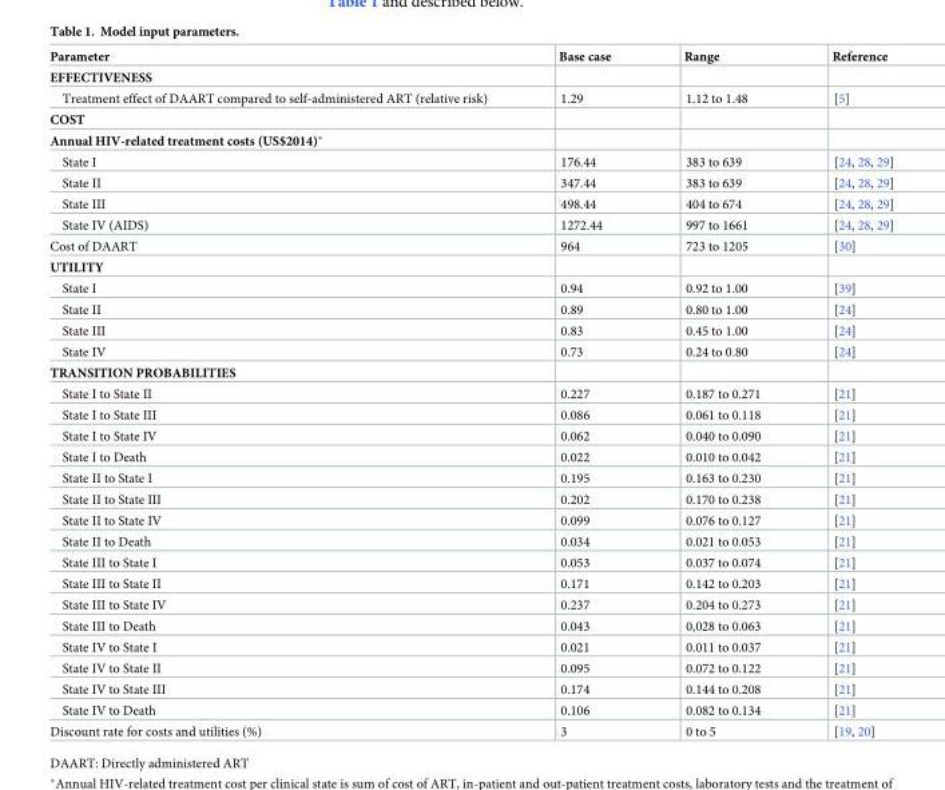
<table><thead><tr><td>Parameter</td><td>Base case</td><td>Range</td><td>Reference</td></tr></thead><tbody><tr><td colspan="4">EFFECTIVENESS</td></tr><tr><td>Treatment effect of DAART compared to self-administered ART (relative risk)</td><td>1.29</td><td>1.12 to 1.48</td><td>[5]</td></tr><tr><td colspan="4">COST</td></tr><tr><td colspan="4">Annual HIV-related treatment costs (US$2014)*</td></tr><tr><td>State I</td><td>176.44</td><td>383 to 639</td><td>[24, 28, 29]</td></tr><tr><td>State II</td><td>347.44</td><td>383 to 639</td><td>[24, 28, 29]</td></tr><tr><td>State III</td><td>498.44</td><td>404 to 674</td><td>[24, 28, 29]</td></tr><tr><td>State IV (AIDS)</td><td>1272.44</td><td>997 to 1661</td><td>[24, 28, 29]</td></tr><tr><td>Cost of DAART</td><td>964</td><td>723 to 1205</td><td>[30]</td></tr><tr><td colspan="4">UTILITY</td></tr><tr><td>State I</td><td>0.94</td><td>0.92 to 1.00</td><td>[39]</td></tr><tr><td>State II</td><td>0.89</td><td>0.80 to 1.00</td><td>[24]</td></tr><tr><td>State III</td><td>0.83</td><td>0.45 to 1.00</td><td>[24]</td></tr><tr><td>State IV</td><td>0.73</td><td>0.24 to 0.80</td><td>[24]</td></tr><tr><td colspan="4">TRANSITION PROBABILITIES</td></tr><tr><td>State I to State II</td><td>0.227</td><td>0.187 to 0.271</td><td>[21]</td></tr><tr><td>State I to State III</td><td>0.086</td><td>0.061 to 0.118</td><td>[21]</td></tr><tr><td>State I to State IV</td><td>0.062</td><td>0.040 to 0.090</td><td>[21]</td></tr><tr><td>State I to Death</td><td>0.022</td><td>0.010 to 0.042</td><td>[21]</td></tr><tr><td>State II to State I</td><td>0.195</td><td>0.163 to 0.230</td><td>[21]</td></tr><tr><td>State II to State III</td><td>0.202</td><td>0.170 to 0.238</td><td>[21]</td></tr><tr><td>State II to State IV</td><td>0.099</td><td>0.076 to 0.127</td><td>[21]</td></tr><tr><td>State II to Death</td><td>0.034</td><td>0.021 to 0.053</td><td>[21]</td></tr><tr><td>State III to State I</td><td>0.053</td><td>0.037 to 0.074</td><td>[21]</td></tr><tr><td>State III to State II</td><td>0.171</td><td>0.142 to 0.203</td><td>[21]</td></tr><tr><td>State III to State IV</td><td>0.237</td><td>0.204 to 0.273</td><td>[21]</td></tr><tr><td>State III to Death</td><td>0.043</td><td>0,028 to 0.063</td><td>[21]</td></tr><tr><td>State IV to State I</td><td>0.021</td><td>0.011 to 0.037</td><td>[21]</td></tr><tr><td>State IV to State II</td><td>0.095</td><td>0.072 to 0.122</td><td>[21]</td></tr><tr><td>State IV to State III</td><td>0.174</td><td>0.144 to 0.208</td><td>[21]</td></tr><tr><td>State IV to Death</td><td>0.106</td><td>0.082 to 0.134</td><td>[21]</td></tr><tr><td>Discount rate for costs and utilities (%)</td><td>3</td><td>0 to 5</td><td>[19, 20]</td></tr></tbody></table>